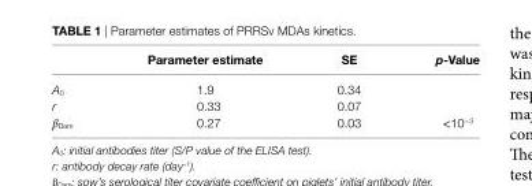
<table><thead><tr><td></td><td>Parameter estimate</td><td>se</td><td>p-Value</td></tr></thead><tbody><tr><td>A<sub>0</sub></td><td>1.9</td><td>0.34</td><td></td></tr><tr><td>r</td><td>0.33</td><td>0.07</td><td></td></tr><tr><td>β<sub>Dam</sub></td><td>0.27</td><td>0.03</td><td>&lt;10<sup>−3</sup></td></tr></tbody></table>